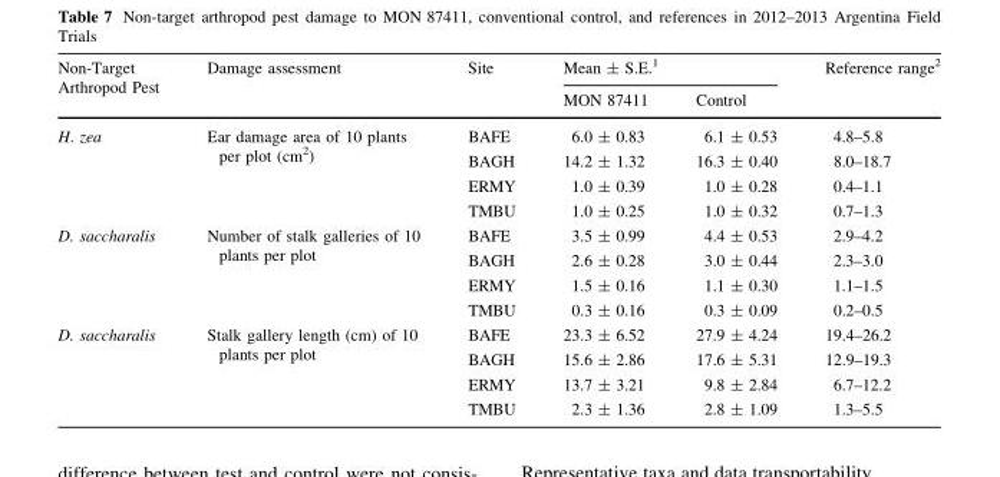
<table><thead><tr><td rowspan="2">Non-Target Arthropod Pest</td><td rowspan="2">Damage assessment</td><td rowspan="2">Site</td><td colspan="2">Mean ± S.E.<sup>1</sup></td><td rowspan="2">Reference range<sup>2</sup></td></tr><tr><td>MON 87411</td><td>Control</td></tr></thead><tbody><tr><td rowspan="4">H. zea</td><td rowspan="4">Ear damage area of 10 plants per plot (cm<sup>2</sup>)</td><td>BAFE</td><td>6.0 ± 0.83</td><td>6.1 ± 0.53</td><td>4.8–5.8</td></tr><tr><td>BAGH</td><td>14.2 ± 1.32</td><td>16.3 ± 0.40</td><td>8.0–18.7</td></tr><tr><td>ERMY</td><td>1.0 ± 0.39</td><td>1.0 ± 0.28</td><td>0.4–1.1</td></tr><tr><td>TMBU</td><td>1.0 ± 0.25</td><td>1.0 ± 0.32</td><td>0.7–1.3</td></tr><tr><td rowspan="4">D. saccharalis</td><td rowspan="4">Number of stalk galleries of 10 plants per plot</td><td>BAFE</td><td>3.5 ± 0.99</td><td>4.4 ± 0.53</td><td>2.9–4.2</td></tr><tr><td>BAGH</td><td>2.6 ± 0.28</td><td>3.0 ± 0.44</td><td>2.3–3.0</td></tr><tr><td>ERMY</td><td>1.5 ± 0.16</td><td>1.1 ± 0.30</td><td>1.1–1.5</td></tr><tr><td>TMBU</td><td>0.3 ± 0.16</td><td>0.3 ± 0.09</td><td>0.2–0.5</td></tr><tr><td rowspan="4">D. saccharalis</td><td rowspan="4">Stalk gallery length (cm) of 10 plants per plot</td><td>BAFE</td><td>23.3 ± 6.52</td><td>27.9 ± 4.24</td><td>19.4–26.2</td></tr><tr><td>BAGH</td><td>15.6 ± 2.86</td><td>17.6 ± 5.31</td><td>12.9–19.3</td></tr><tr><td>ERMY</td><td>13.7 ± 3.21</td><td>9.8 ± 2.84</td><td>6.7–12.2</td></tr><tr><td>TMBU</td><td>2.3 ± 1.36</td><td>2.8 ± 1.09</td><td>1.3–5.5</td></tr></tbody></table>